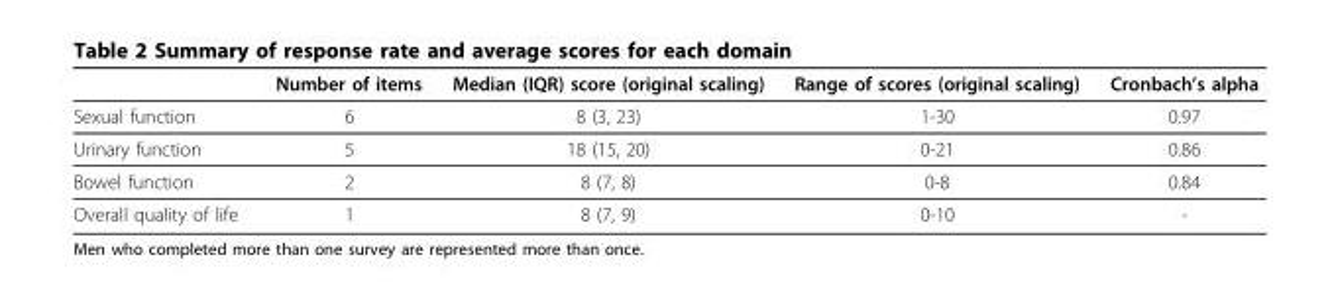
<table><thead><tr><td></td><td>Number of items</td><td>Median (IQR) score (original scaling)</td><td>Range of scores (original scaling)</td><td>Cronbach’s alpha</td></tr></thead><tbody><tr><td>Sexual function</td><td>6</td><td>8 (3, 23)</td><td>1-30</td><td>0.97</td></tr><tr><td>Urinary function</td><td>5</td><td>18 (15, 20)</td><td>0-21</td><td>0.86</td></tr><tr><td>Bowel function</td><td>2</td><td>8 (7, 8)</td><td>0-8</td><td>0.84</td></tr><tr><td>Overall quality of life</td><td>1</td><td>8 (7, 9)</td><td>0-10</td><td>-</td></tr></tbody></table>